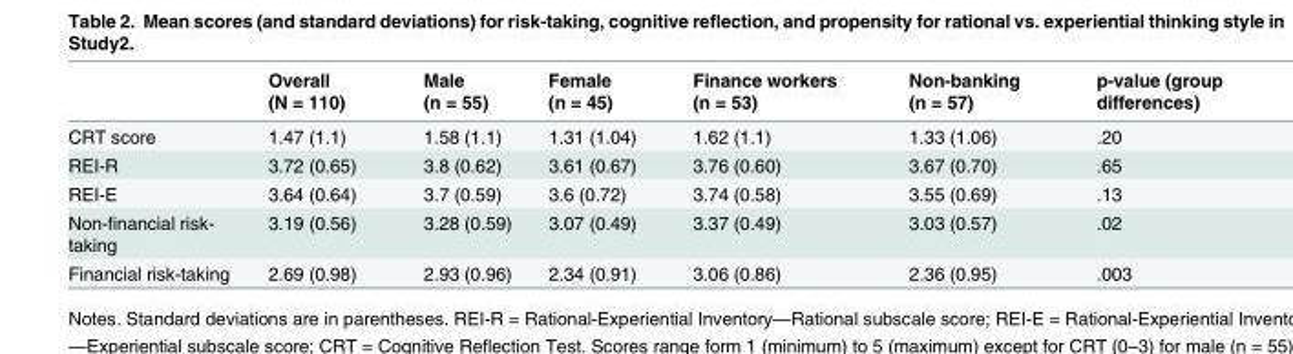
<table><thead><tr><td></td><td>Overall (N = 110)</td><td>Male (n = 55)</td><td>Female (n = 45)</td><td>Finance workers (n = 53)</td><td>Non-banking (n = 57)</td><td>p-value (group differences)</td></tr></thead><tbody><tr><td>CRT score</td><td>1.47 (1.1)</td><td>1.58 (1.1)</td><td>1.31 (1.04)</td><td>1.62 (1.1)</td><td>1.33 (1.06)</td><td>.20</td></tr><tr><td>REI-R</td><td>3.72 (0.65)</td><td>3.8 (0.62)</td><td>3.61 (0.67)</td><td>3.76 (0.60)</td><td>3.67 (0.70)</td><td>.65</td></tr><tr><td>REI-E</td><td>3.64 (0.64)</td><td>3.7 (0.59)</td><td>3.6 (0.72)</td><td>3.74 (0.58)</td><td>3.55 (0.69)</td><td>.13</td></tr><tr><td>Non-financial risk- taking</td><td>3.19 (0.56)</td><td>3.28 (0.59)</td><td>3.07 (0.49)</td><td>3.37 (0.49)</td><td>3.03 (0.57)</td><td>.02</td></tr><tr><td>Financial risk-taking</td><td>2.69 (0.98)</td><td>2.93 (0.96)</td><td>2.34 (0.91)</td><td>3.06 (0.86)</td><td>2.36 (0.95)</td><td>.003</td></tr></tbody></table>